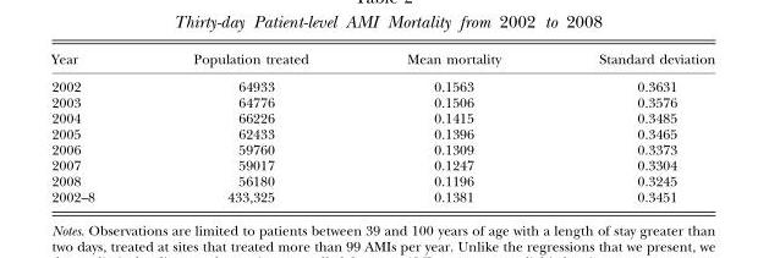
<table><thead><tr><td>Year</td><td>Population treated</td><td>Mean mortality</td><td>Standard deviation</td></tr></thead><tbody><tr><td>2002</td><td>64933</td><td>0.1563</td><td>0.3631</td></tr><tr><td>2003</td><td>64776</td><td>0.1506</td><td>0.3576</td></tr><tr><td>2004</td><td>66226</td><td>0.1415</td><td>0.3485</td></tr><tr><td>2005</td><td>62433</td><td>0.1396</td><td>0.3465</td></tr><tr><td>2006</td><td>59760</td><td>0.1309</td><td>0.3373</td></tr><tr><td>2007</td><td>59017</td><td>0.1247</td><td>0.3304</td></tr><tr><td>2008</td><td>56180</td><td>0.1196</td><td>0.3245</td></tr><tr><td>2002–8</td><td>433,325</td><td>0.1381</td><td>0.3451</td></tr></tbody></table>